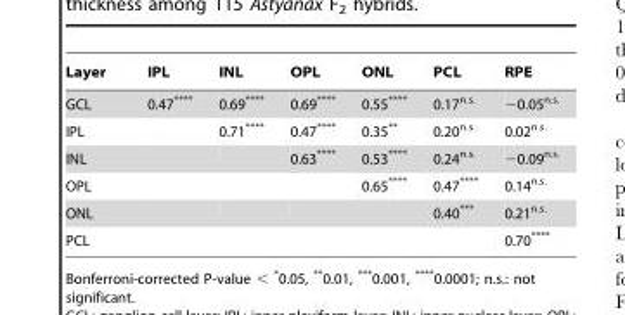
<table><thead><tr><td>Layer</td><td>IPL</td><td>INL</td><td>OPL</td><td>ONL</td><td>PCL</td><td>RPE</td></tr></thead><tbody><tr><td>GCL</td><td>0.47****</td><td>0.69****</td><td>0.69****</td><td>0.55****</td><td>0.17<sup>n.s.</sup></td><td>−0.05<sup>n.s.</sup></td></tr><tr><td>IPL</td><td></td><td>0.71****</td><td>0.47****</td><td>0.35**</td><td>0.20<sup>n.s.</sup></td><td>0.02<sup>n.s.</sup></td></tr><tr><td>INL</td><td></td><td></td><td>0.63****</td><td>0.53****</td><td>0.24<sup>n.s.</sup></td><td>−0.09<sup>n.s.</sup></td></tr><tr><td>OPL</td><td></td><td></td><td></td><td>0.65****</td><td>0.47****</td><td>0.14<sup>n.s.</sup></td></tr><tr><td>ONL</td><td></td><td></td><td></td><td></td><td>0.40***</td><td>0.21<sup>n.s.</sup></td></tr><tr><td>PCL</td><td></td><td></td><td></td><td></td><td></td><td>0.70****</td></tr></tbody></table>